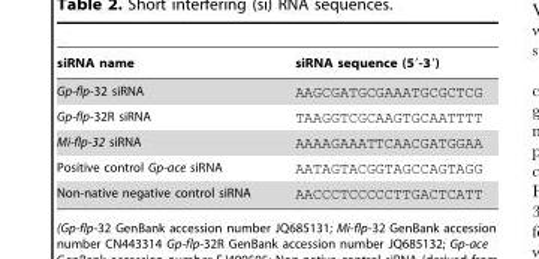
<table><thead><tr><td>siRNA name</td><td>siRNA sequence (5′-3′)</td></tr></thead><tbody><tr><td>Gp-flp-32 siRNA</td><td>AAGCGATGCGAAATGCGCTCG</td></tr><tr><td>Gp-flp-32R siRNA</td><td>TAAGGTCGCAAGTGCAATTTT</td></tr><tr><td>Mi-flp-32 siRNA</td><td>AAAAGAAATTCAACGATGGAA</td></tr><tr><td>Positive control Gp-ace siRNA</td><td>AATAGTACGGTAGCCAGTAGG</td></tr><tr><td>Non-native negative control siRNA</td><td>AACCCTCCCCCTTGACTCATT</td></tr></tbody></table>